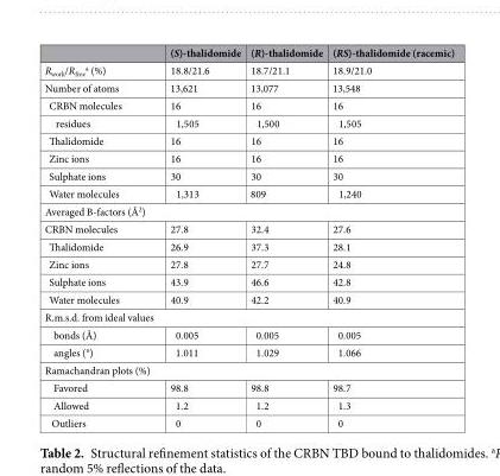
<table><thead><tr><td></td><td>(S)-thalidomide</td><td>(R)-thalidomide</td><td>(RS)-thalidomide (racemic)</td></tr></thead><tbody><tr><td>R<sub>work</sub>/R<sub>free</sub> <sup>a</sup> (%)</td><td>18.8/21.6</td><td>18.7/21.1</td><td>18.9/21.0</td></tr><tr><td>Number of atoms</td><td>13,621</td><td>13,077</td><td>13,548</td></tr><tr><td>CRBN molecules</td><td>16</td><td>16</td><td>16</td></tr><tr><td>residues</td><td>1,505</td><td>1,500</td><td>1,505</td></tr><tr><td>Thalidomide</td><td>16</td><td>16</td><td>16</td></tr><tr><td>Zinc ions</td><td>16</td><td>16</td><td>16</td></tr><tr><td>Sulphate ions</td><td>30</td><td>30</td><td>30</td></tr><tr><td>Water molecules</td><td>1,313</td><td>809</td><td>1,240</td></tr><tr><td colspan="4">Averaged B-factors (Å<sup>2</sup>)</td></tr><tr><td>CRBN molecules</td><td>27.8</td><td>32.4</td><td>27.6</td></tr><tr><td>Thalidomide</td><td>26.9</td><td>37.3</td><td>28.1</td></tr><tr><td>Zinc ions</td><td>27.8</td><td>27.7</td><td>24.8</td></tr><tr><td>Sulphate ions</td><td>43.9</td><td>46.6</td><td>42.8</td></tr><tr><td>Water molecules</td><td>40.9</td><td>42.2</td><td>40.9</td></tr><tr><td colspan="4">R.m.s.d. from ideal values</td></tr><tr><td>bonds (Å)</td><td>0.005</td><td>0.005</td><td>0.005</td></tr><tr><td>angles (°)</td><td>1.011</td><td>1.029</td><td>1.066</td></tr><tr><td colspan="4">Ramachandran plots (%)</td></tr><tr><td>Favored</td><td>98.8</td><td>98.8</td><td>98.7</td></tr><tr><td>Allowed</td><td>1.2</td><td>1.2</td><td>1.3</td></tr><tr><td>Outliers</td><td>0</td><td>0</td><td>0</td></tr></tbody></table>